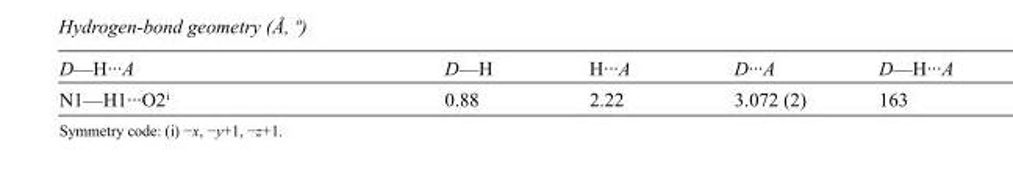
<table><tbody><tr><td>D—H···A</td><td>D—H</td><td>H···A</td><td>D···A</td><td>D—H···A</td></tr><tr><td>N1—H1···O2<sup>i</sup></td><td>0.88</td><td>2.22</td><td>3.072 (2)</td><td>163</td></tr></tbody></table>